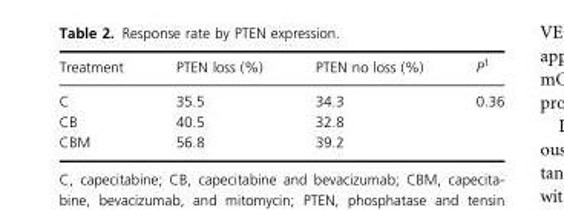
<table><thead><tr><td>Treatment</td><td>PTEN loss (%)</td><td>PTEN no loss (%)</td><td>P<sup>1</sup></td></tr></thead><tbody><tr><td>C</td><td>35.5</td><td>34.3</td><td>0.36</td></tr><tr><td>CB</td><td>40.5</td><td>32.8</td><td></td></tr><tr><td>CBM</td><td>56.8</td><td>39.2</td><td></td></tr></tbody></table>